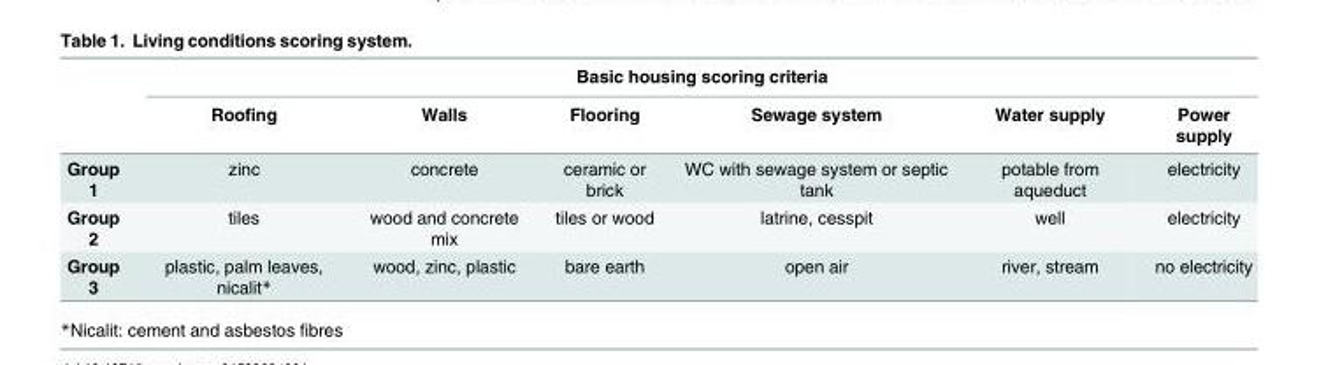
<table><thead><tr><td rowspan="2"></td><td colspan="6">Basic housing scoring criteria</td></tr><tr><td>Roofing</td><td>Walls</td><td>Flooring</td><td>Sewage system</td><td>Water supply</td><td>Power supply</td></tr></thead><tbody><tr><td>Group 1</td><td>zinc</td><td>concrete</td><td>ceramic or brick</td><td>WC with sewage system or septic tank</td><td>potable from aqueduct</td><td>electricity</td></tr><tr><td>Group 2</td><td>tiles</td><td>wood and concrete mix</td><td>tiles or wood</td><td>latrine, cesspit</td><td>well</td><td>electricity</td></tr><tr><td>Group 3</td><td>plastic, palm leaves, nicalit*</td><td>wood, zinc, plastic</td><td>bare earth</td><td>open air</td><td>river, stream</td><td>no electricity</td></tr></tbody></table>